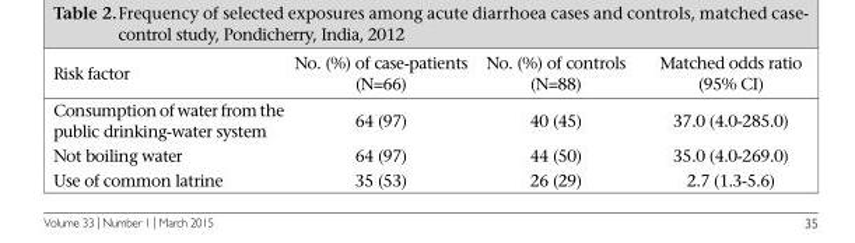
<table><thead><tr><td>Risk factor</td><td>No. (%) of case-patients (N=66)</td><td>No. (%) of controls (N=88)</td><td>Matched odds ratio (95% CI)</td></tr></thead><tbody><tr><td>Consumption of water from the public drinking-water system</td><td>64 (97)</td><td>40 (45)</td><td>37.0 (4.0-285.0)</td></tr><tr><td>Not boiling water</td><td>64 (97)</td><td>44 (50)</td><td>35.0 (4.0-269.0)</td></tr><tr><td>Use of common latrine</td><td>35 (53)</td><td>26 (29)</td><td>2.7 (1.3-5.6)</td></tr></tbody></table>